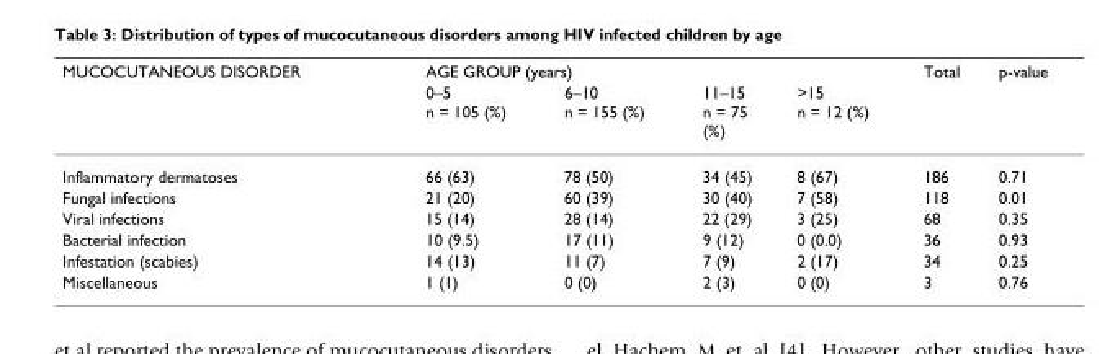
<table><thead><tr><td rowspan="2">MUCOCUTANEOUS DISORDER</td><td colspan="4">AGE GROUP (years)</td><td rowspan="2">Total</td><td rowspan="2">p-value</td></tr><tr><td>0–5 n = 105 (%)</td><td>6–10 n = 155 (%)</td><td>11–15 n = 75 (%)</td><td>&gt;15 n = 12 (%)</td></tr></thead><tbody><tr><td>Inflammatory dermatoses</td><td>66 (63)</td><td>78 (50)</td><td>34 (45)</td><td>8 (67)</td><td>186</td><td>0.71</td></tr><tr><td>Fungal infections</td><td>21 (20)</td><td>60 (39)</td><td>30 (40)</td><td>7 (58)</td><td>118</td><td>0.01</td></tr><tr><td>Viral infections</td><td>15 (14)</td><td>28 (14)</td><td>22 (29)</td><td>3 (25)</td><td>68</td><td>0.35</td></tr><tr><td>Bacterial infection</td><td>10 (9.5)</td><td>17 (11)</td><td>9 (12)</td><td>0 (0.0)</td><td>36</td><td>0.93</td></tr><tr><td>Infestation (scabies)</td><td>14 (13)</td><td>11 (7)</td><td>7 (9)</td><td>2 (17)</td><td>34</td><td>0.25</td></tr><tr><td>Miscellaneous</td><td>1 (1)</td><td>0 (0)</td><td>2 (3)</td><td>0 (0)</td><td>3</td><td>0.76</td></tr></tbody></table>